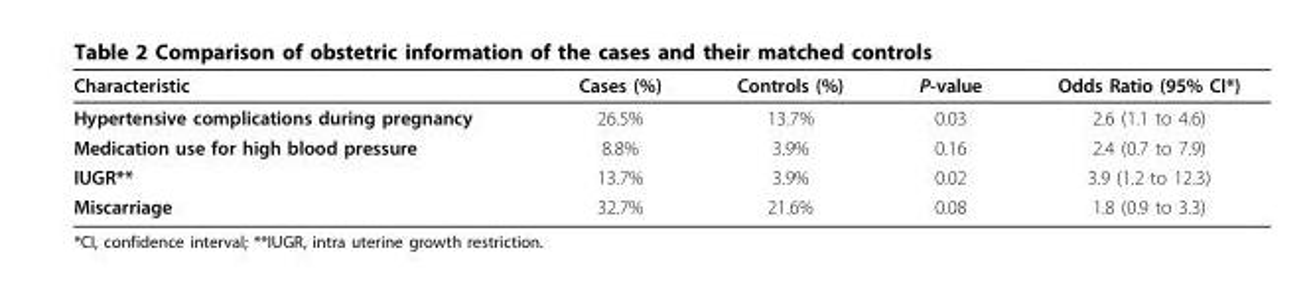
<table><thead><tr><td>Characteristic</td><td>Cases (%)</td><td>Controls (%)</td><td>P-value</td><td>Odds Ratio (95% CI*)</td></tr></thead><tbody><tr><td>Hypertensive complications during pregnancy</td><td>26.5%</td><td>13.7%</td><td>0.03</td><td>2.6 (1.1 to 4.6)</td></tr><tr><td>Medication use for high blood pressure</td><td>8.8%</td><td>3.9%</td><td>0.16</td><td>2.4 (0.7 to 7.9)</td></tr><tr><td>IUGR**</td><td>13.7%</td><td>3.9%</td><td>0.02</td><td>3.9 (1.2 to 12.3)</td></tr><tr><td>Miscarriage</td><td>32.7%</td><td>21.6%</td><td>0.08</td><td>1.8 (0.9 to 3.3)</td></tr></tbody></table>